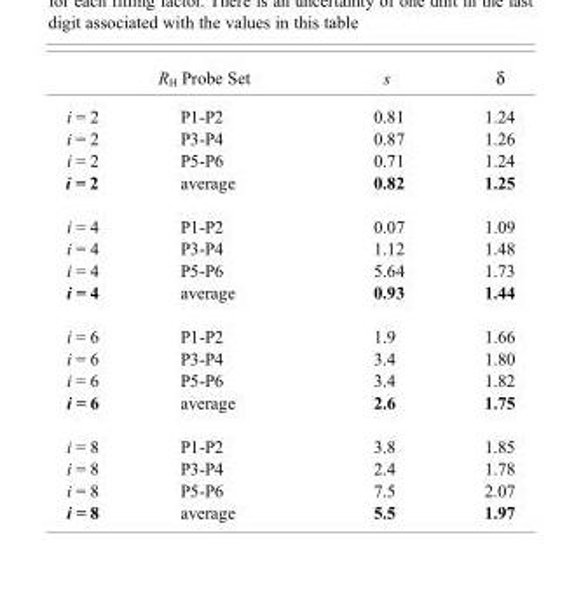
<table><thead><tr><td></td><td>R<sub>H</sub> Probe Set</td><td>s</td><td>δ</td></tr></thead><tbody><tr><td>i = 2</td><td>P1-P2</td><td>0.81</td><td>1.24</td></tr><tr><td>i = 2</td><td>P3-P4</td><td>0.87</td><td>1.26</td></tr><tr><td>i = 2</td><td>P5-P6</td><td>0.71</td><td>1.24</td></tr><tr><td>i = 2</td><td>average</td><td>0.82</td><td>1.25</td></tr><tr><td>i = 4</td><td>P1-P2</td><td>0.07</td><td>1.09</td></tr><tr><td>i = 4</td><td>P3-P4</td><td>1.12</td><td>1.48</td></tr><tr><td>i = 4</td><td>P5-P6</td><td>5.64</td><td>1.73</td></tr><tr><td>i = 4</td><td>average</td><td>0.93</td><td>1.44</td></tr><tr><td>i = 6</td><td>P1-P2</td><td>1.9</td><td>1.66</td></tr><tr><td>i = 6</td><td>P3-P4</td><td>3.4</td><td>1.80</td></tr><tr><td>i = 6</td><td>P5-P6</td><td>3.4</td><td>1.82</td></tr><tr><td>i = 6</td><td>average</td><td>2.6</td><td>1.75</td></tr><tr><td>i = 8</td><td>P1-P2</td><td>3.8</td><td>1.85</td></tr><tr><td>i = 8</td><td>P3-P4</td><td>2.4</td><td>1.78</td></tr><tr><td>i = 8</td><td>P5-P6</td><td>7.5</td><td>2.07</td></tr><tr><td>i = 8</td><td>average</td><td>5.5</td><td>1.97</td></tr></tbody></table>